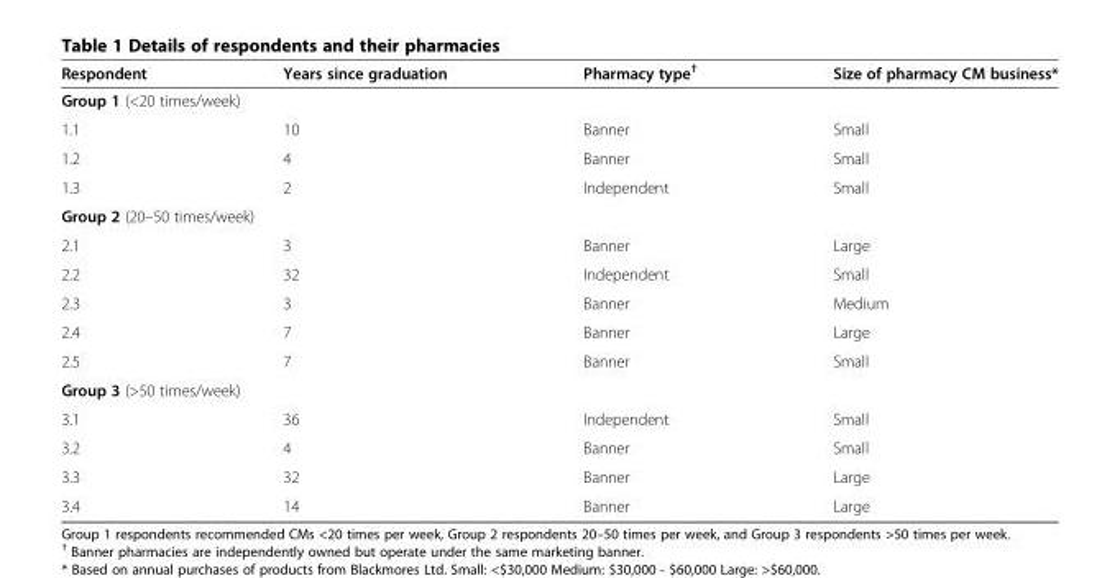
<table><thead><tr><td>Respondent</td><td>Years since graduation</td><td>Pharmacy type<sup>†</sup></td><td>Size of pharmacy CM business*</td></tr></thead><tbody><tr><td colspan="4">Group 1 (&lt;20 times/week)</td></tr><tr><td>1.1</td><td>10</td><td>Banner</td><td>Small</td></tr><tr><td>1.2</td><td>4</td><td>Banner</td><td>Small</td></tr><tr><td>1.3</td><td>2</td><td>Independent</td><td>Small</td></tr><tr><td colspan="4">Group 2 (20–50 times/week)</td></tr><tr><td>2.1</td><td>3</td><td>Banner</td><td>Large</td></tr><tr><td>2.2</td><td>32</td><td>Independent</td><td>Small</td></tr><tr><td>2.3</td><td>3</td><td>Banner</td><td>Medium</td></tr><tr><td>2.4</td><td>7</td><td>Banner</td><td>Large</td></tr><tr><td>2.5</td><td>7</td><td>Banner</td><td>Small</td></tr><tr><td colspan="4">Group 3 (&gt;50 times/week)</td></tr><tr><td>3.1</td><td>36</td><td>Independent</td><td>Small</td></tr><tr><td>3.2</td><td>4</td><td>Banner</td><td>Small</td></tr><tr><td>3.3</td><td>32</td><td>Banner</td><td>Large</td></tr><tr><td>3.4</td><td>14</td><td>Banner</td><td>Large</td></tr></tbody></table>